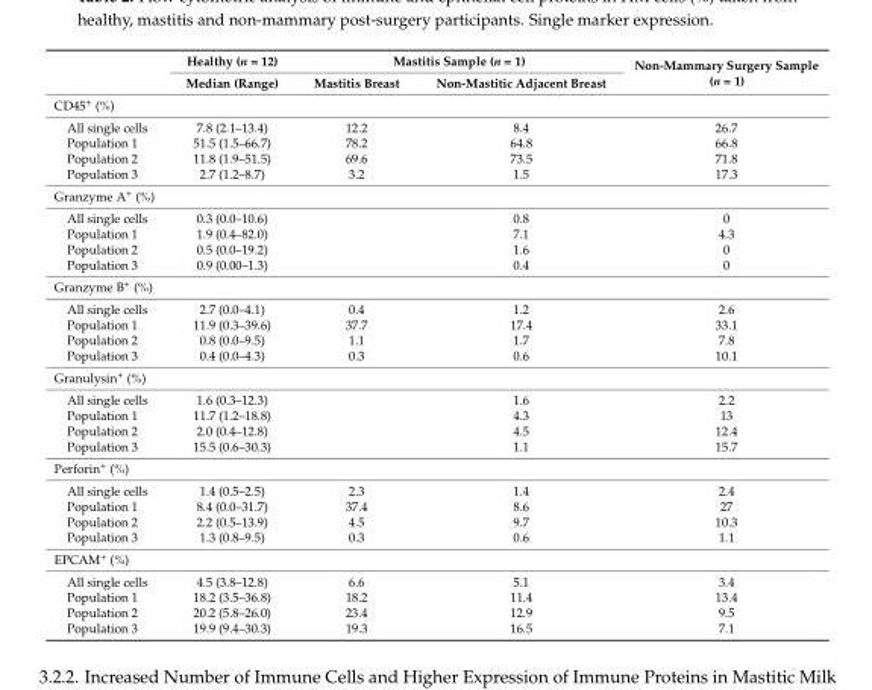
<table><thead><tr><td rowspan="2"></td><td rowspan="2">Healthy (n = 12) Median (Range)</td><td colspan="2">Mastitis Sample (n = 1)</td><td rowspan="2">Non-Mammary Surgery Sample (n = 1)</td></tr><tr><td>Mastitis Breast</td><td>Non-Mastitic Adjacent Breast</td></tr></thead><tbody><tr><td colspan="5">CD45<sup>+</sup> (%)</td></tr><tr><td>All single cells</td><td>7.8 (2.1–13.4)</td><td>12.2</td><td>8.4</td><td>26.7</td></tr><tr><td>Population 1</td><td>51.5 (1.5–66.7)</td><td>78.2</td><td>64.8</td><td>66.8</td></tr><tr><td>Population 2</td><td>11.8 (1.9–51.5)</td><td>69.6</td><td>73.5</td><td>71.8</td></tr><tr><td>Population 3</td><td>2.7 (1.2–8.7)</td><td>3.2</td><td>1.5</td><td>17.3</td></tr><tr><td colspan="5">Granzyme A<sup>+</sup> (%)</td></tr><tr><td>All single cells</td><td>0.3 (0.0–10.6)</td><td></td><td>0.8</td><td>0</td></tr><tr><td>Population 1</td><td>1.9 (0.4–82.0)</td><td></td><td>7.1</td><td>4.3</td></tr><tr><td>Population 2</td><td>0.5 (0.0–19.2)</td><td></td><td>1.6</td><td>0</td></tr><tr><td>Population 3</td><td>0.9 (0.00–1.3)</td><td></td><td>0.4</td><td>0</td></tr><tr><td colspan="5">Granzyme B<sup>+</sup> (%)</td></tr><tr><td>All single cells</td><td>2.7 (0.0–4.1)</td><td>0.4</td><td>1.2</td><td>2.6</td></tr><tr><td>Population 1</td><td>11.9 (0.3–39.6)</td><td>37.7</td><td>17.4</td><td>33.1</td></tr><tr><td>Population 2</td><td>0.8 (0.0–9.5)</td><td>1.1</td><td>1.7</td><td>7.8</td></tr><tr><td>Population 3</td><td>0.4 (0.0–4.3)</td><td>0.3</td><td>0.6</td><td>10.1</td></tr><tr><td colspan="5">Granulysin<sup>+</sup> (%)</td></tr><tr><td>All single cells</td><td>1.6 (0.3–12.3)</td><td></td><td>1.6</td><td>2.2</td></tr><tr><td>Population 1</td><td>11.7 (1.2–18.8)</td><td></td><td>4.3</td><td>13</td></tr><tr><td>Population 2</td><td>2.0 (0.4–12.8)</td><td></td><td>4.5</td><td>12.4</td></tr><tr><td>Population 3</td><td>15.5 (0.6–30.3)</td><td></td><td>1.1</td><td>15.7</td></tr><tr><td colspan="5">Perforin<sup>+</sup> (%)</td></tr><tr><td>All single cells</td><td>1.4 (0.5–2.5)</td><td>2.3</td><td>1.4</td><td>2.4</td></tr><tr><td>Population 1</td><td>8.4 (0.0–31.7)</td><td>37.4</td><td>8.6</td><td>27</td></tr><tr><td>Population 2</td><td>2.2 (0.5–13.9)</td><td>4.5</td><td>9.7</td><td>10.3</td></tr><tr><td>Population 3</td><td>1.3 (0.8–9.5)</td><td>0.3</td><td>0.6</td><td>1.1</td></tr><tr><td colspan="5">EPCAM<sup>+</sup> (%)</td></tr><tr><td>All single cells</td><td>4.5 (3.8–12.8)</td><td>6.6</td><td>5.1</td><td>3.4</td></tr><tr><td>Population 1</td><td>18.2 (3.5–36.8)</td><td>18.2</td><td>11.4</td><td>13.4</td></tr><tr><td>Population 2</td><td>20.2 (5.8–26.0)</td><td>23.4</td><td>12.9</td><td>9.5</td></tr><tr><td>Population 3</td><td>19.9 (9.4–30.3)</td><td>19.3</td><td>16.5</td><td>7.1</td></tr></tbody></table>